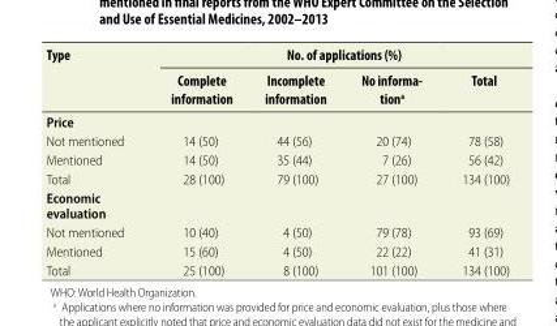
<table><thead><tr><td rowspan="2">Type</td><td colspan="4">No. of applications (%)</td></tr><tr><td>Complete information</td><td>Incomplete information</td><td>No informa- tiona</td><td>Total</td></tr></thead><tbody><tr><td colspan="5">Price</td></tr><tr><td>Not mentioned</td><td>14 (50)</td><td>44 (56)</td><td>20 (74)</td><td>78 (58)</td></tr><tr><td>Mentioned</td><td>14 (50)</td><td>35 (44)</td><td>7 (26)</td><td>56 (42)</td></tr><tr><td>Total</td><td>28 (100)</td><td>79 (100)</td><td>27 (100)</td><td>134 (100)</td></tr><tr><td colspan="5">Economic evaluation</td></tr><tr><td>Not mentioned</td><td>10 (40)</td><td>4 (50)</td><td>79 (78)</td><td>93 (69)</td></tr><tr><td>Mentioned</td><td>15 (60)</td><td>4 (50)</td><td>22 (22)</td><td>41 (31)</td></tr><tr><td>Total</td><td>25 (100)</td><td>8 (100)</td><td>101 (100)</td><td>134 (100)</td></tr></tbody></table>